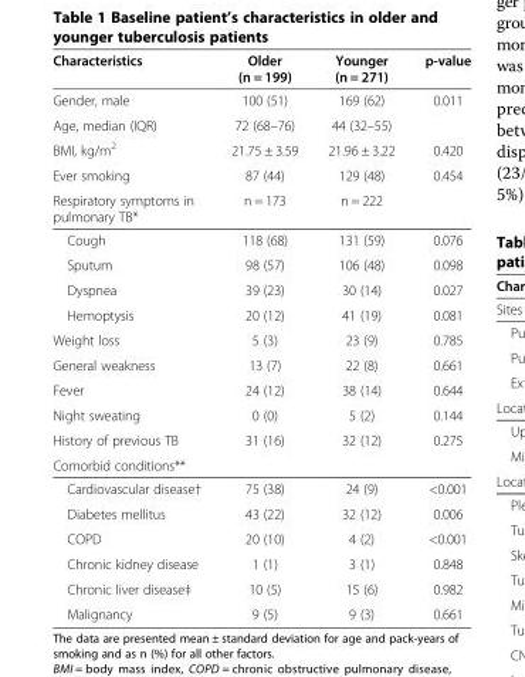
<table><thead><tr><td>Characteristics</td><td>Older (n = 199)</td><td>Younger (n = 271)</td><td>p-value</td></tr></thead><tbody><tr><td>Gender, male</td><td>100 (51)</td><td>169 (62)</td><td>0.011</td></tr><tr><td>Age, median (IQR)</td><td>72 (68–76)</td><td>44 (32–55)</td><td></td></tr><tr><td>BMI, kg/m<sup>2</sup></td><td>21.75 ± 3.59</td><td>21.96 ± 3.22</td><td>0.420</td></tr><tr><td>Ever smoking</td><td>87 (44)</td><td>129 (48)</td><td>0.454</td></tr><tr><td>Respiratory symptoms in pulmonary TB*</td><td>n = 173</td><td>n = 222</td><td></td></tr><tr><td>Cough</td><td>118 (68)</td><td>131 (59)</td><td>0.076</td></tr><tr><td>Sputum</td><td>98 (57)</td><td>106 (48)</td><td>0.098</td></tr><tr><td>Dyspnea</td><td>39 (23)</td><td>30 (14)</td><td>0.027</td></tr><tr><td>Hemoptysis</td><td>20 (12)</td><td>41 (19)</td><td>0.081</td></tr><tr><td>Weight loss</td><td>5 (3)</td><td>23 (9)</td><td>0.785</td></tr><tr><td>General weakness</td><td>13 (7)</td><td>22 (8)</td><td>0.661</td></tr><tr><td>Fever</td><td>24 (12)</td><td>38 (14)</td><td>0.644</td></tr><tr><td>Night sweating</td><td>0 (0)</td><td>5 (2)</td><td>0.144</td></tr><tr><td>History of previous TB</td><td>31 (16)</td><td>32 (12)</td><td>0.275</td></tr><tr><td colspan="4">Comorbid conditions**</td></tr><tr><td>Cardiovascular disease†</td><td>75 (38)</td><td>24 (9)</td><td>&lt;0.001</td></tr><tr><td>Diabetes mellitus</td><td>43 (22)</td><td>32 (12)</td><td>0.006</td></tr><tr><td>COPD</td><td>20 (10)</td><td>4 (2)</td><td>&lt;0.001</td></tr><tr><td>Chronic kidney disease</td><td>1 (1)</td><td>3 (1)</td><td>0.848</td></tr><tr><td>Chronic liver disease‡</td><td>10 (5)</td><td>15 (6)</td><td>0.982</td></tr><tr><td>Malignancy</td><td>9 (5)</td><td>9 (3)</td><td>0.661</td></tr></tbody></table>